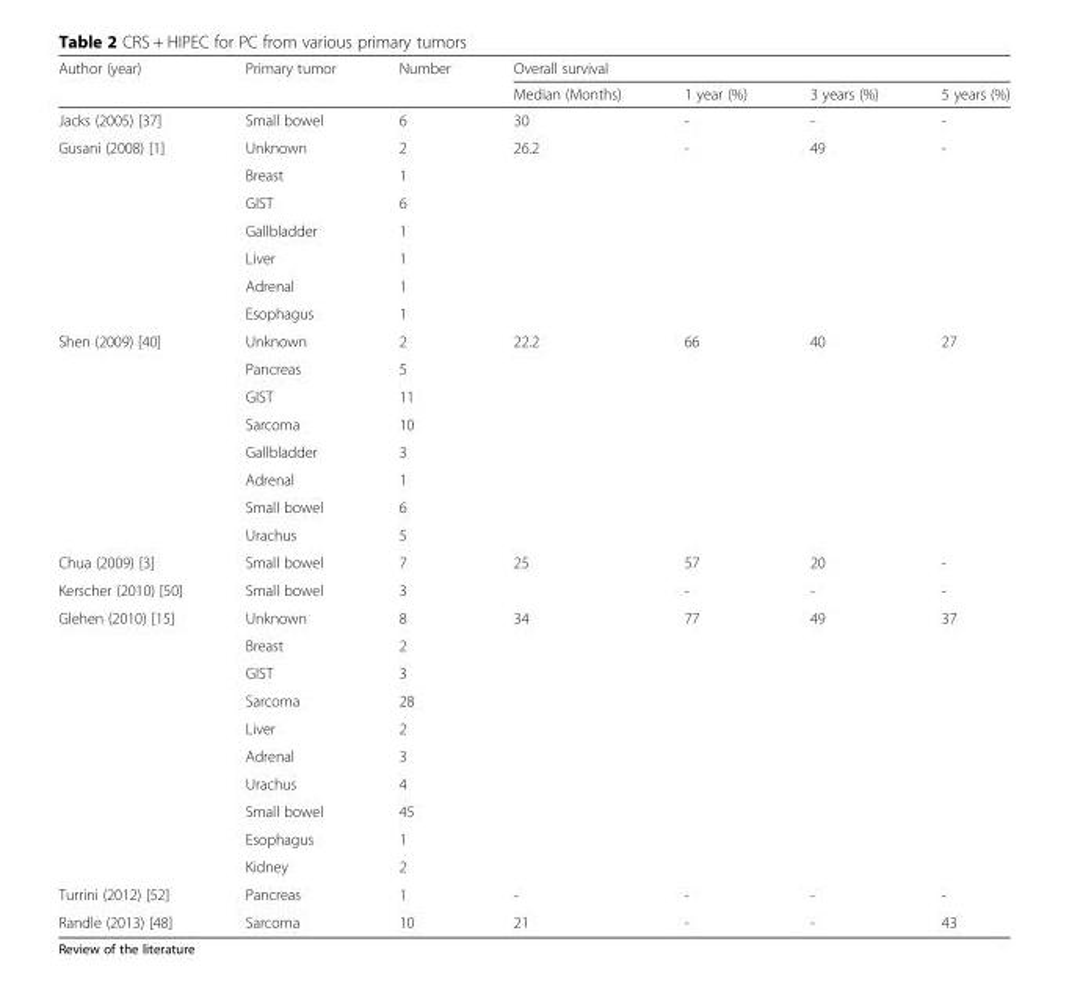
<table><thead><tr><td rowspan="2">Author (year)</td><td rowspan="2">Primary tumor</td><td rowspan="2">Number</td><td colspan="4">Overall survival</td></tr><tr><td>Median (Months)</td><td>1 year (%)</td><td>3 years (%)</td><td>5 years (%)</td></tr></thead><tbody><tr><td>Jacks (2005) [37]</td><td>Small bowel</td><td>6</td><td>30</td><td>-</td><td>-</td><td>-</td></tr><tr><td rowspan="7">Gusani (2008) [1]</td><td>Unknown</td><td>2</td><td rowspan="7">26.2</td><td rowspan="7">-</td><td rowspan="7">49</td><td rowspan="7">-</td></tr><tr><td>Breast</td><td>1</td></tr><tr><td>GIST</td><td>6</td></tr><tr><td>Gallbladder</td><td>1</td></tr><tr><td>Liver</td><td>1</td></tr><tr><td>Adrenal</td><td>1</td></tr><tr><td>Esophagus</td><td>1</td></tr><tr><td rowspan="8">Shen (2009) [40]</td><td>Unknown</td><td>2</td><td rowspan="8">22.2</td><td rowspan="8">66</td><td rowspan="8">40</td><td rowspan="8">27</td></tr><tr><td>Pancreas</td><td>5</td></tr><tr><td>GIST</td><td>11</td></tr><tr><td>Sarcoma</td><td>10</td></tr><tr><td>Gallbladder</td><td>3</td></tr><tr><td>Adrenal</td><td>1</td></tr><tr><td>Small bowel</td><td>6</td></tr><tr><td>Urachus</td><td>5</td></tr><tr><td>Chua (2009) [3]</td><td>Small bowel</td><td>7</td><td>25</td><td>57</td><td>20</td><td>-</td></tr><tr><td>Kerscher (2010) [50]</td><td>Small bowel</td><td>3</td><td></td><td>-</td><td>-</td><td>-</td></tr><tr><td rowspan="10">Glehen (2010) [15]</td><td>Unknown</td><td>8</td><td rowspan="10">34</td><td rowspan="10">77</td><td rowspan="10">49</td><td rowspan="10">37</td></tr><tr><td>Breast</td><td>2</td></tr><tr><td>GIST</td><td>3</td></tr><tr><td>Sarcoma</td><td>28</td></tr><tr><td>Liver</td><td>2</td></tr><tr><td>Adrenal</td><td>3</td></tr><tr><td>Urachus</td><td>4</td></tr><tr><td>Small bowel</td><td>45</td></tr><tr><td>Esophagus</td><td>1</td></tr><tr><td>Kidney</td><td>2</td></tr><tr><td>Turrini (2012) [52]</td><td>Pancreas</td><td>1</td><td>-</td><td>-</td><td>-</td><td>-</td></tr><tr><td>Randle (2013) [48]</td><td>Sarcoma</td><td>10</td><td>21</td><td>-</td><td>-</td><td>43</td></tr></tbody></table>